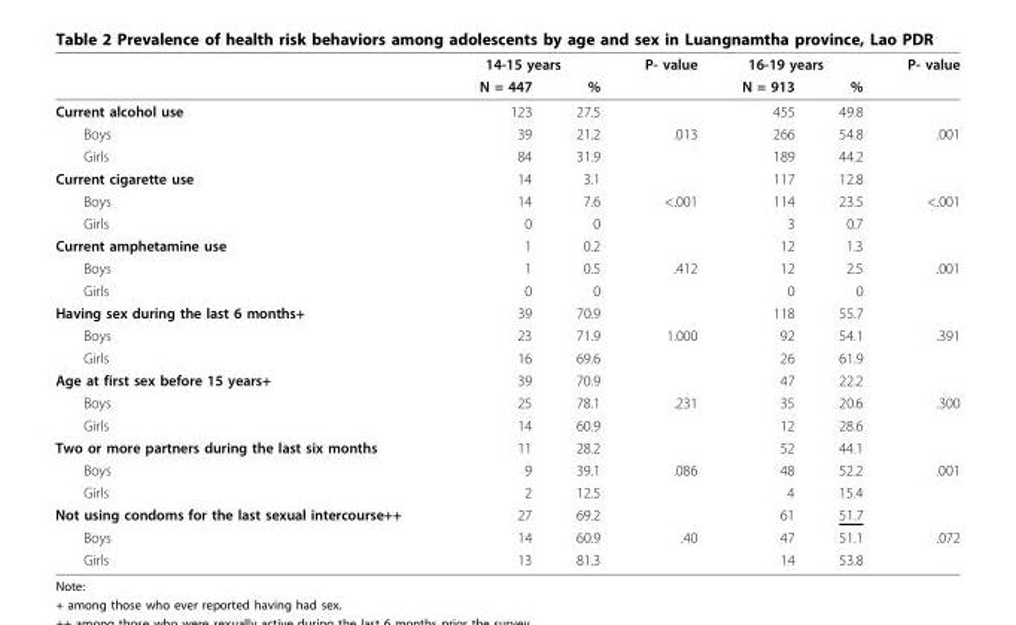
<table><thead><tr><td rowspan="2"></td><td colspan="2">14-15 years</td><td rowspan="2">P- value</td><td colspan="2">16-19 years</td><td rowspan="2">P- value</td></tr><tr><td>N = 447</td><td>%</td><td>N = 913</td><td>%</td></tr></thead><tbody><tr><td>Current alcohol use</td><td>123</td><td>27.5</td><td></td><td>455</td><td>49.8</td><td></td></tr><tr><td>Boys</td><td>39</td><td>21.2</td><td>.013</td><td>266</td><td>54.8</td><td>.001</td></tr><tr><td>Girls</td><td>84</td><td>31.9</td><td></td><td>189</td><td>44.2</td><td></td></tr><tr><td>Current cigarette use</td><td>14</td><td>3.1</td><td></td><td>117</td><td>12.8</td><td></td></tr><tr><td>Boys</td><td>14</td><td>7.6</td><td>&lt;.001</td><td>114</td><td>23.5</td><td>&lt;.001</td></tr><tr><td>Girls</td><td>0</td><td>0</td><td></td><td>3</td><td>0.7</td><td></td></tr><tr><td>Current amphetamine use</td><td>1</td><td>0.2</td><td></td><td>12</td><td>1.3</td><td></td></tr><tr><td>Boys</td><td>1</td><td>0.5</td><td>.412</td><td>12</td><td>2.5</td><td>.001</td></tr><tr><td>Girls</td><td>0</td><td>0</td><td></td><td>0</td><td>0</td><td></td></tr><tr><td>Having sex during the last 6 months+</td><td>39</td><td>70.9</td><td></td><td>118</td><td>55.7</td><td></td></tr><tr><td>Boys</td><td>23</td><td>71.9</td><td>1.000</td><td>92</td><td>54.1</td><td>.391</td></tr><tr><td>Girls</td><td>16</td><td>69.6</td><td></td><td>26</td><td>61.9</td><td></td></tr><tr><td>Age at first sex before 15 years+</td><td>39</td><td>70.9</td><td></td><td>47</td><td>22.2</td><td></td></tr><tr><td>Boys</td><td>25</td><td>78.1</td><td>.231</td><td>35</td><td>20.6</td><td>.300</td></tr><tr><td>Girls</td><td>14</td><td>60.9</td><td></td><td>12</td><td>28.6</td><td></td></tr><tr><td>Two or more partners during the last six months</td><td>11</td><td>28.2</td><td></td><td>52</td><td>44.1</td><td></td></tr><tr><td>Boys</td><td>9</td><td>39.1</td><td>.086</td><td>48</td><td>52.2</td><td>.001</td></tr><tr><td>Girls</td><td>2</td><td>12.5</td><td></td><td>4</td><td>15.4</td><td></td></tr><tr><td>Not using condoms for the last sexual intercourse++</td><td>27</td><td>69.2</td><td></td><td>61</td><td>51.7</td><td></td></tr><tr><td>Boys</td><td>14</td><td>60.9</td><td>.40</td><td>47</td><td>51.1</td><td>.072</td></tr><tr><td>Girls</td><td>13</td><td>81.3</td><td></td><td>14</td><td>53.8</td><td></td></tr></tbody></table>